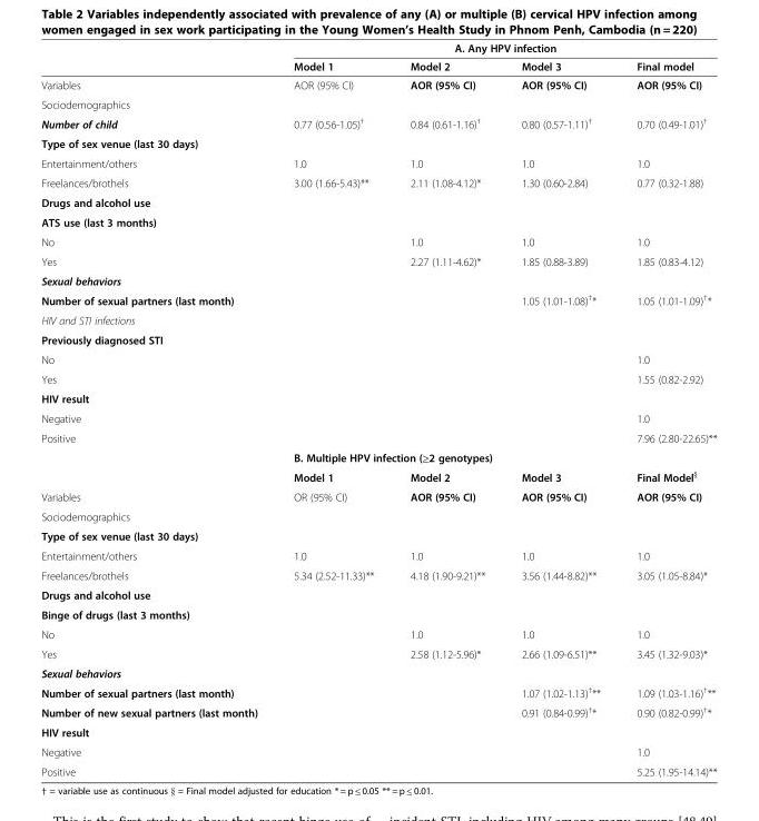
<table><thead><tr><td rowspan="2"></td><td colspan="4">A. Any HPV infection</td></tr><tr><td>Model 1</td><td>Model 2</td><td>Model 3</td><td>Final model</td></tr></thead><tbody><tr><td>Variables</td><td>AOR (95% CI)</td><td>AOR (95% CI)</td><td>AOR (95% CI)</td><td>AOR (95% CI)</td></tr><tr><td colspan="5">Sociodemographics</td></tr><tr><td>Number of child</td><td>0.77 (0.56-1.05)<sup>†</sup></td><td>0.84 (0.61-1.16)<sup>†</sup></td><td>0.80 (0.57-1.11)<sup>†</sup></td><td>0.70 (0.49-1.01)<sup>†</sup></td></tr><tr><td colspan="5">Type of sex venue (last 30 days)</td></tr><tr><td>Entertainment/others</td><td>1.0</td><td>1.0</td><td>1.0</td><td>1.0</td></tr><tr><td>Freelances/brothels</td><td>3.00 (1.66-5.43)**</td><td>2.11 (1.08-4.12)*</td><td>1.30 (0.60-2.84)</td><td>0.77 (0.32-1.88)</td></tr><tr><td colspan="5">Drugs and alcohol use</td></tr><tr><td colspan="5">ATS use (last 3 months)</td></tr><tr><td>No</td><td></td><td>1.0</td><td>1.0</td><td>1.0</td></tr><tr><td>Yes</td><td></td><td>2.27 (1.11-4.62)*</td><td>1.85 (0.88-3.89)</td><td>1.85 (0.83-4.12)</td></tr><tr><td colspan="5">Sexual behaviors</td></tr><tr><td>Number of sexual partners (last month)</td><td></td><td></td><td>1.05 (1.01-1.08)<sup>†</sup>*</td><td>1.05 (1.01-1.09)<sup>†</sup>*</td></tr><tr><td colspan="5">HIV and STI infections</td></tr><tr><td colspan="5">Previously diagnosed STI</td></tr><tr><td>No</td><td></td><td></td><td></td><td>1.0</td></tr><tr><td>Yes</td><td></td><td></td><td></td><td>1.55 (0.82-2.92)</td></tr><tr><td colspan="5">HIV result</td></tr><tr><td>Negative</td><td></td><td></td><td></td><td>1.0</td></tr><tr><td rowspan="3">Positive</td><td></td><td></td><td></td><td>7.96 (2.80-22.65)**</td></tr><tr><td colspan="4">B. Multiple HPV infection (≥2 genotypes)</td></tr><tr><td>Model 1</td><td>Model 2</td><td>Model 3</td><td>Final Model<sup>§</sup></td></tr><tr><td>Variables</td><td>OR (95% CI)</td><td>AOR (95% CI)</td><td>AOR (95% CI)</td><td>AOR (95% CI)</td></tr><tr><td colspan="5">Sociodemographics</td></tr><tr><td colspan="5">Type of sex venue (last 30 days)</td></tr><tr><td>Entertainment/others</td><td>1.0</td><td>1.0</td><td>1.0</td><td>1.0</td></tr><tr><td>Freelances/brothels</td><td>5.34 (2.52-11.33)**</td><td>4.18 (1.90-9.21)**</td><td>3.56 (1.44-8.82)**</td><td>3.05 (1.05-8.84)*</td></tr><tr><td colspan="5">Drugs and alcohol use</td></tr><tr><td colspan="5">Binge of drugs (last 3 months)</td></tr><tr><td>No</td><td></td><td>1.0</td><td>1.0</td><td>1.0</td></tr><tr><td>Yes</td><td></td><td>2.58 (1.12-5.96)*</td><td>2.66 (1.09-6.51)**</td><td>3.45 (1.32-9.03)*</td></tr><tr><td colspan="5">Sexual behaviors</td></tr><tr><td>Number of sexual partners (last month)</td><td></td><td></td><td>1.07 (1.02-1.13)<sup>†</sup>**</td><td>1.09 (1.03-1.16)<sup>†</sup>**</td></tr><tr><td>Number of new sexual partners (last month)</td><td></td><td></td><td>0.91 (0.84-0.99)<sup>†</sup>*</td><td>0.90 (0.82-0.99)<sup>†</sup>*</td></tr><tr><td colspan="5">HIV result</td></tr><tr><td>Negative</td><td></td><td></td><td></td><td>1.0</td></tr><tr><td>Positive</td><td></td><td></td><td></td><td>5.25 (1.95-14.14)**</td></tr></tbody></table>